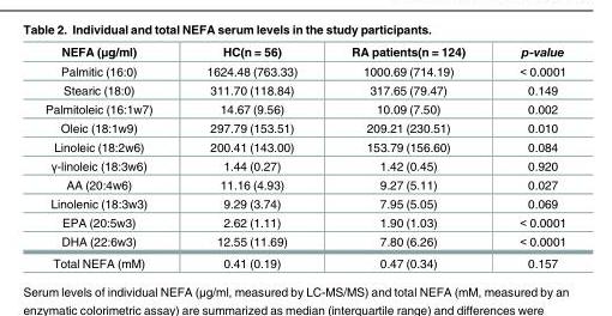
<table><thead><tr><td>NEFA (μg/ml)</td><td>HC(n = 56)</td><td>RA patients(n = 124)</td><td>p-value</td></tr></thead><tbody><tr><td>Palmitic (16:0)</td><td>1624.48 (763.33)</td><td>1000.69 (714.19)</td><td>&lt; 0.0001</td></tr><tr><td>Stearic (18:0)</td><td>311.70 (118.84)</td><td>317.65 (79.47)</td><td>0.149</td></tr><tr><td>Palmitoleic (16:1w7)</td><td>14.67 (9.56)</td><td>10.09 (7.50)</td><td>0.002</td></tr><tr><td>Oleic (18:1w9)</td><td>297.79 (153.51)</td><td>209.21 (230.51)</td><td>0.010</td></tr><tr><td>Linoleic (18:2w6)</td><td>200.41 (143.00)</td><td>153.79 (156.60)</td><td>0.084</td></tr><tr><td>γ-linoleic (18:3w6)</td><td>1.44 (0.27)</td><td>1.42 (0.45)</td><td>0.920</td></tr><tr><td>AA (20:4w6)</td><td>11.16 (4.93)</td><td>9.27 (5.11)</td><td>0.027</td></tr><tr><td>Linolenic (18:3w3)</td><td>9.29 (3.74)</td><td>7.95 (5.05)</td><td>0.069</td></tr><tr><td>EPA (20:5w3)</td><td>2.62 (1.11)</td><td>1.90 (1.03)</td><td>&lt; 0.0001</td></tr><tr><td>DHA (22:6w3)</td><td>12.55 (11.69)</td><td>7.80 (6.26)</td><td>&lt; 0.0001</td></tr><tr><td>Total NEFA (mM)</td><td>0.41 (0.19)</td><td>0.47 (0.34)</td><td>0.157</td></tr></tbody></table>